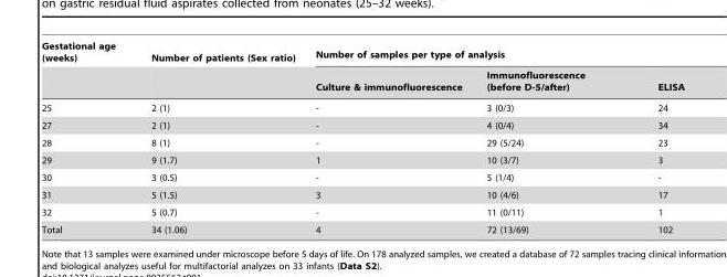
<table><thead><tr><td rowspan="2">Gestational age (weeks)</td><td rowspan="2">Number of patients (Sex ratio)</td><td colspan="3">Number of samples per type of analysis</td></tr><tr><td>Culture &amp; immunofluorescence</td><td>Immunofluorescence (before D-5/after)</td><td>ELISA</td></tr></thead><tbody><tr><td>25</td><td>2 (1)</td><td>-</td><td>3 (0/3)</td><td>24</td></tr><tr><td>27</td><td>2 (1)</td><td>-</td><td>4 (0/4)</td><td>34</td></tr><tr><td>28</td><td>8 (1)</td><td>-</td><td>29 (5/24)</td><td>23</td></tr><tr><td>29</td><td>9 (1.7)</td><td>1</td><td>10 (3/7)</td><td>3</td></tr><tr><td>30</td><td>3 (0.5)</td><td>-</td><td>5 (1/4)</td><td>-</td></tr><tr><td>31</td><td>5 (1.5)</td><td>3</td><td>10 (4/6)</td><td>17</td></tr><tr><td>32</td><td>5 (0.7)</td><td>-</td><td>11 (0/11)</td><td>1</td></tr><tr><td>Total</td><td>34 (1.06)</td><td>4</td><td>72 (13/69)</td><td>102</td></tr></tbody></table>